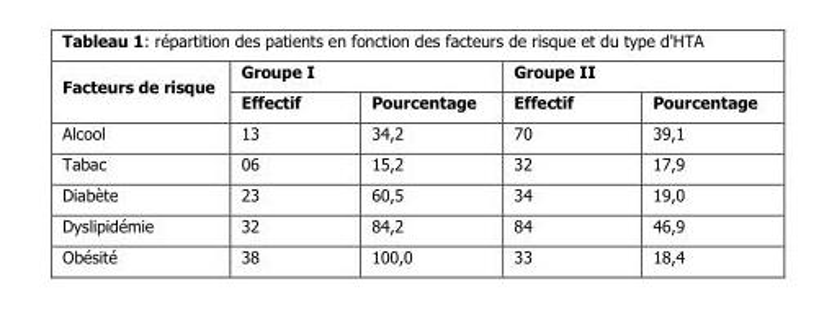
<table><thead><tr><td rowspan="2">Facteurs de risque</td><td colspan="2">Groupe I</td><td colspan="2">Groupe II</td></tr><tr><td>Effectif</td><td>Pourcentage</td><td>Effectif</td><td>Pourcentage</td></tr></thead><tbody><tr><td>Alcool</td><td>13</td><td>34,2</td><td>70</td><td>39,1</td></tr><tr><td>Tabac</td><td>06</td><td>15,2</td><td>32</td><td>17,9</td></tr><tr><td>Diabète</td><td>23</td><td>60,5</td><td>34</td><td>19,0</td></tr><tr><td>Dyslipidémie</td><td>32</td><td>84,2</td><td>84</td><td>46,9</td></tr><tr><td>Obésité</td><td>38</td><td>100,0</td><td>33</td><td>18,4</td></tr></tbody></table>